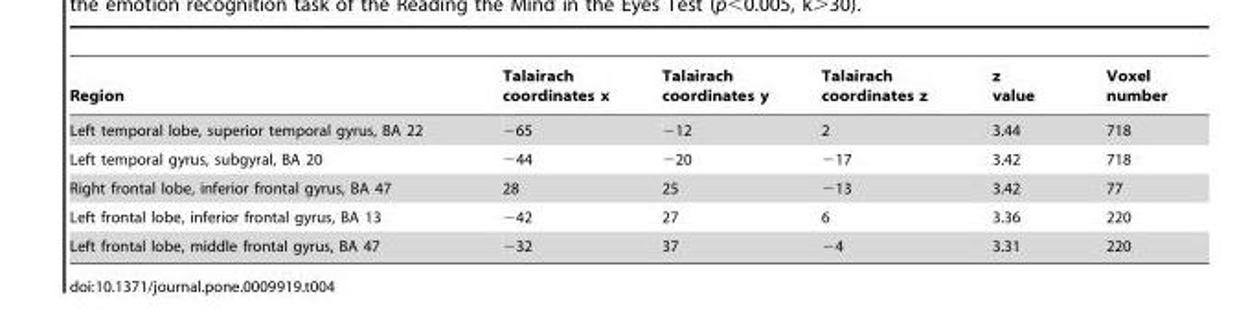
<table><thead><tr><td>Region</td><td>Talairach coordinates x</td><td>Talairach coordinates y</td><td>Talairach coordinates z</td><td>z value</td><td>Voxel number</td></tr></thead><tbody><tr><td>Left temporal lobe, superior temporal gyrus, BA 22</td><td>−65</td><td>−12</td><td>2</td><td>3.44</td><td>718</td></tr><tr><td>Left temporal gyrus, subgyral, BA 20</td><td>−44</td><td>−20</td><td>−17</td><td>3.42</td><td>718</td></tr><tr><td>Right frontal lobe, inferior frontal gyrus, BA 47</td><td>28</td><td>25</td><td>−13</td><td>3.42</td><td>77</td></tr><tr><td>Left frontal lobe, inferior frontal gyrus, BA 13</td><td>−42</td><td>27</td><td>6</td><td>3.36</td><td>220</td></tr><tr><td>Left frontal lobe, middle frontal gyrus, BA 47</td><td>−32</td><td>37</td><td>−4</td><td>3.31</td><td>220</td></tr></tbody></table>